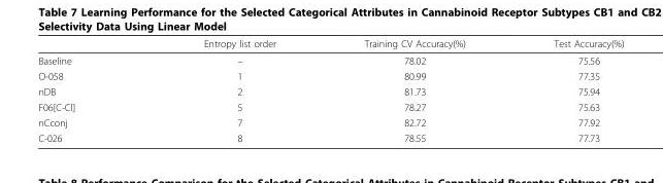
<table><thead><tr><td></td><td>Entropy list order</td><td>Training CV Accuracy(%)</td><td>Test Accuracy(%)</td></tr></thead><tbody><tr><td>Baseline</td><td>–</td><td>78.02</td><td>75.56</td></tr><tr><td>O-058</td><td>1</td><td>80.99</td><td>77.35</td></tr><tr><td>nDB</td><td>2</td><td>81.73</td><td>75.94</td></tr><tr><td>F06[C-Cl]</td><td>5</td><td>78.27</td><td>75.63</td></tr><tr><td>nCconj</td><td>7</td><td>82.72</td><td>77.92</td></tr><tr><td>C-026</td><td>8</td><td>78.55</td><td>77.73</td></tr></tbody></table>